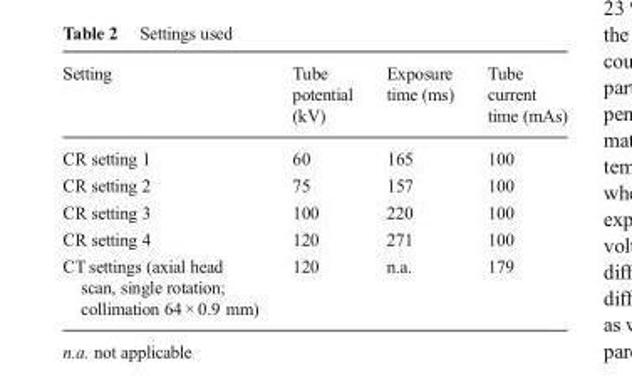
<table><thead><tr><td>Setting</td><td>Tube potential (kV)</td><td>Exposure time (ms)</td><td>Tube current time (mAs)</td></tr></thead><tbody><tr><td>CR setting 1</td><td>60</td><td>165</td><td>100</td></tr><tr><td>CR setting 2</td><td>75</td><td>157</td><td>100</td></tr><tr><td>CR setting 3</td><td>100</td><td>220</td><td>100</td></tr><tr><td>CR setting 4</td><td>120</td><td>271</td><td>100</td></tr><tr><td>CT settings (axial head scan, single rotation; collimation 64 × 0.9 mm)</td><td>120</td><td>n.a.</td><td>179</td></tr></tbody></table>